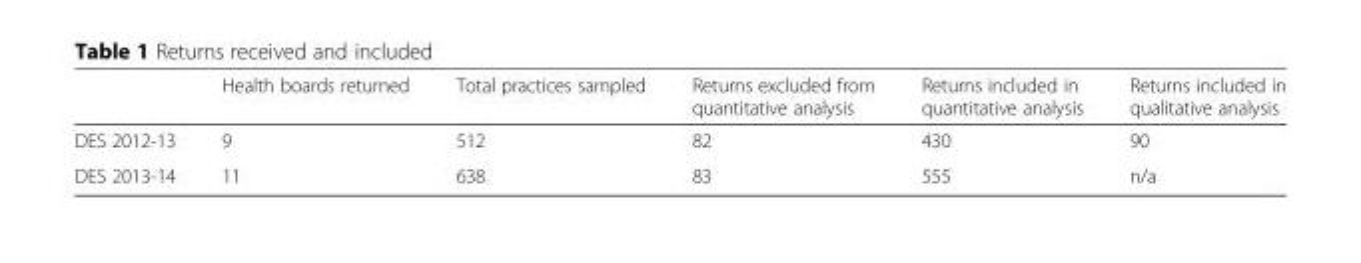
<table><thead><tr><td></td><td>Health boards returned</td><td>Total practices sampled</td><td>Returns excluded from quantitative analysis</td><td>Returns included in quantitative analysis</td><td>Returns included in qualitative analysis</td></tr></thead><tbody><tr><td>DES 2012-13</td><td>9</td><td>512</td><td>82</td><td>430</td><td>90</td></tr><tr><td>DES 2013-14</td><td>11</td><td>638</td><td>83</td><td>555</td><td>n/a</td></tr></tbody></table>